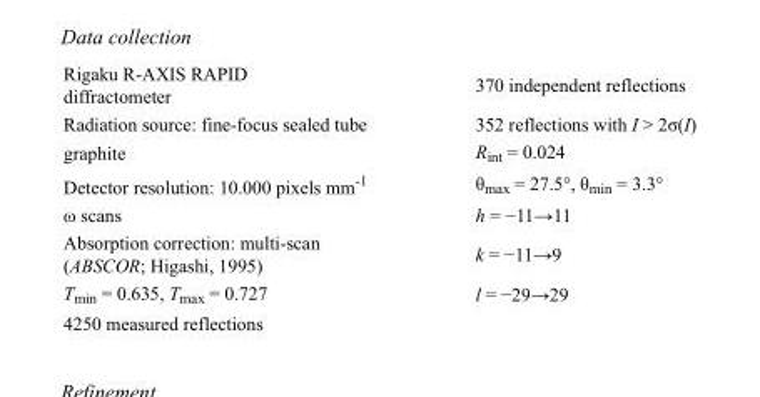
<table><tbody><tr><td>Rigaku R-AXIS RAPID diffractometer</td><td>370 independent reflections</td></tr><tr><td>Radiation source: fine-focus sealed tube</td><td>352 reflections with I &gt; 2σ(I)</td></tr><tr><td>graphite</td><td>R<sub>int</sub> = 0.024</td></tr><tr><td>Detector resolution: 10.000 pixels mm<sup>-1</sup></td><td>θ<sub>max</sub> = 27.5°, θ<sub>min</sub> = 3.3°</td></tr><tr><td>ω scans</td><td>h = −11→11</td></tr><tr><td>Absorption correction: multi-scan (ABSCOR; Higashi, 1995)</td><td>k = −11→9</td></tr><tr><td>T<sub>min</sub> = 0.635, T<sub>max</sub> = 0.727</td><td>l = −29→29</td></tr><tr><td>4250 measured reflections</td><td></td></tr></tbody></table>